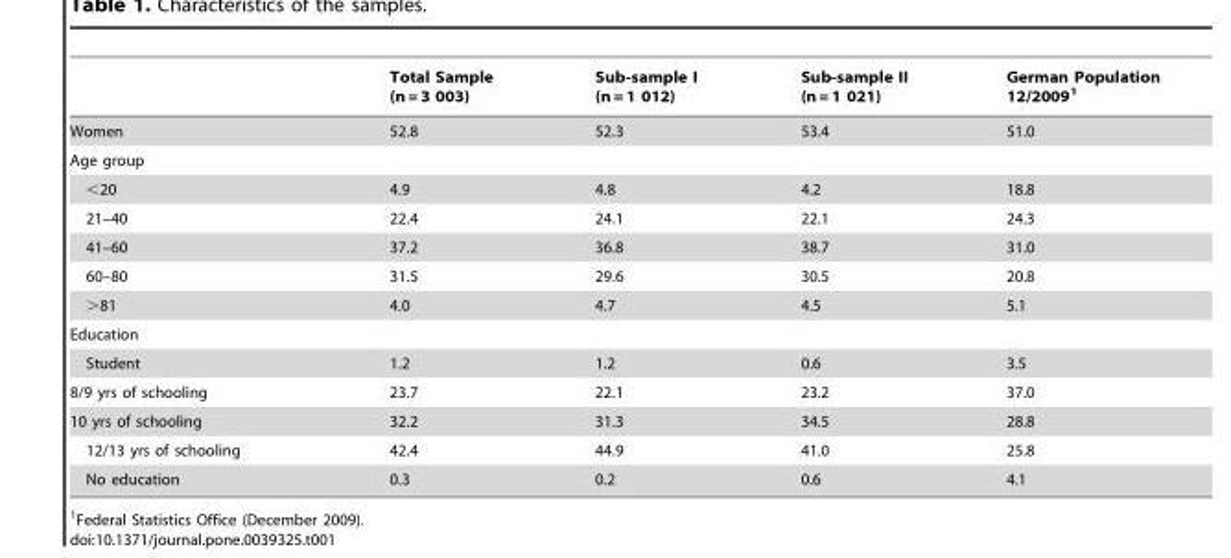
<table><thead><tr><td></td><td>Total Sample (n = 3 003)</td><td>Sub-sample I (n = 1 012)</td><td>Sub-sample II (n = 1 021)</td><td>German Population 12/2009<sup>1</sup></td></tr></thead><tbody><tr><td>Women</td><td>52.8</td><td>52.3</td><td>53.4</td><td>51.0</td></tr><tr><td colspan="5">Age group</td></tr><tr><td>&lt;20</td><td>4.9</td><td>4.8</td><td>4.2</td><td>18.8</td></tr><tr><td>21–40</td><td>22.4</td><td>24.1</td><td>22.1</td><td>24.3</td></tr><tr><td>41–60</td><td>37.2</td><td>36.8</td><td>38.7</td><td>31.0</td></tr><tr><td>60–80</td><td>31.5</td><td>29.6</td><td>30.5</td><td>20.8</td></tr><tr><td>&gt;81</td><td>4.0</td><td>4.7</td><td>4.5</td><td>5.1</td></tr><tr><td colspan="5">Education</td></tr><tr><td>Student</td><td>1.2</td><td>1.2</td><td>0.6</td><td>3.5</td></tr><tr><td>8/9 yrs of schooling</td><td>23.7</td><td>22.1</td><td>23.2</td><td>37.0</td></tr><tr><td>10 yrs of schooling</td><td>32.2</td><td>31.3</td><td>34.5</td><td>28.8</td></tr><tr><td>12/13 yrs of schooling</td><td>42.4</td><td>44.9</td><td>41.0</td><td>25.8</td></tr><tr><td>No education</td><td>0.3</td><td>0.2</td><td>0.6</td><td>4.1</td></tr></tbody></table>